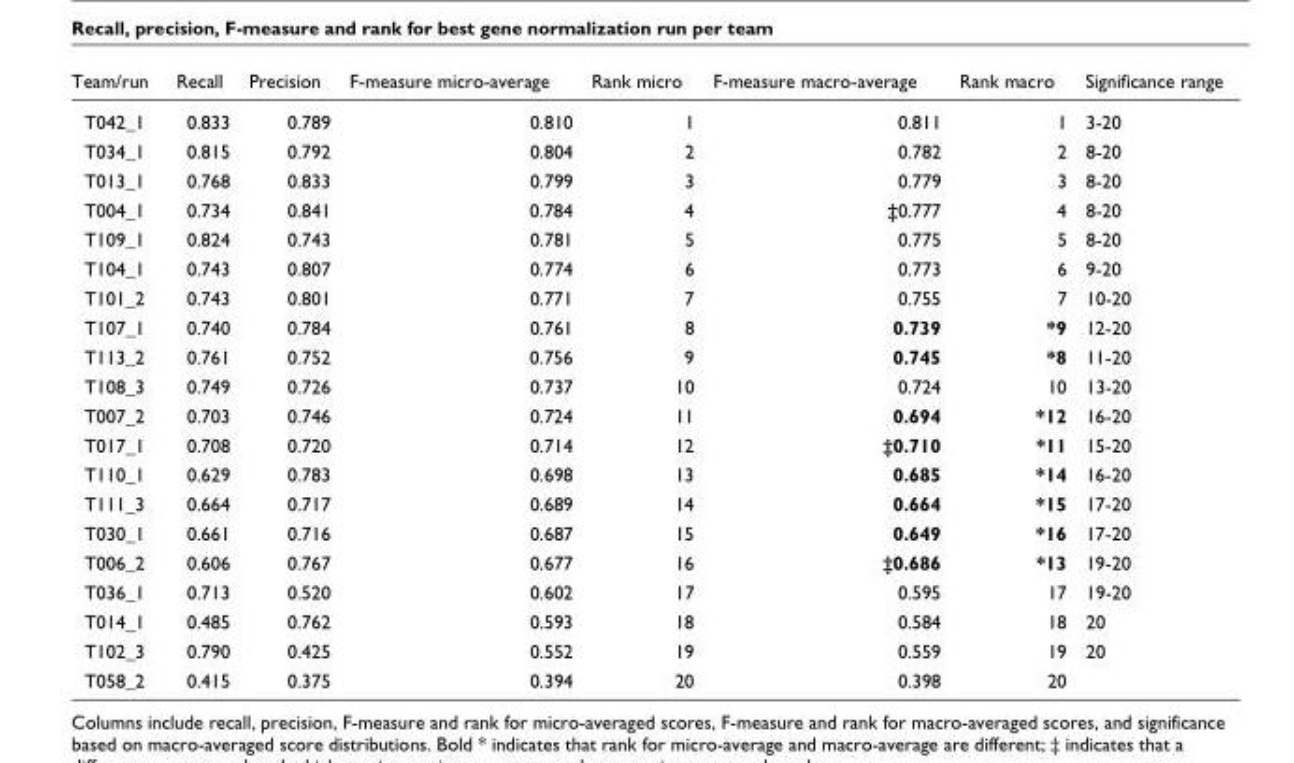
<table><thead><tr><td>Team/run</td><td>Recall</td><td>Precision</td><td>F-measure micro-average</td><td>Rank micro</td><td>F-measure macro-average</td><td>Rank macro</td><td>Significance range</td></tr></thead><tbody><tr><td>T042_1</td><td>0.833</td><td>0.789</td><td>0.810</td><td>1</td><td>0.811</td><td>1</td><td>3-20</td></tr><tr><td>T034_1</td><td>0.815</td><td>0.792</td><td>0.804</td><td>2</td><td>0.782</td><td>2</td><td>8-20</td></tr><tr><td>T013_1</td><td>0.768</td><td>0.833</td><td>0.799</td><td>3</td><td>0.779</td><td>3</td><td>8-20</td></tr><tr><td>T004_1</td><td>0.734</td><td>0.841</td><td>0.784</td><td>4</td><td>‡0.777</td><td>4</td><td>8-20</td></tr><tr><td>T109_1</td><td>0.824</td><td>0.743</td><td>0.781</td><td>5</td><td>0.775</td><td>5</td><td>8-20</td></tr><tr><td>T104_1</td><td>0.743</td><td>0.807</td><td>0.774</td><td>6</td><td>0.773</td><td>6</td><td>9-20</td></tr><tr><td>T101_2</td><td>0.743</td><td>0.801</td><td>0.771</td><td>7</td><td>0.755</td><td>7</td><td>10-20</td></tr><tr><td>T107_1</td><td>0.740</td><td>0.784</td><td>0.761</td><td>8</td><td>0.739</td><td>*9</td><td>12-20</td></tr><tr><td>T113_2</td><td>0.761</td><td>0.752</td><td>0.756</td><td>9</td><td>0.745</td><td>*8</td><td>11-20</td></tr><tr><td>T108_3</td><td>0.749</td><td>0.726</td><td>0.737</td><td>10</td><td>0.724</td><td>10</td><td>13-20</td></tr><tr><td>T007_2</td><td>0.703</td><td>0.746</td><td>0.724</td><td>11</td><td>0.694</td><td>*12</td><td>16-20</td></tr><tr><td>T017_1</td><td>0.708</td><td>0.720</td><td>0.714</td><td>12</td><td>‡0.710</td><td>*11</td><td>15-20</td></tr><tr><td>T110_1</td><td>0.629</td><td>0.783</td><td>0.698</td><td>13</td><td>0.685</td><td>*14</td><td>16-20</td></tr><tr><td>T111_3</td><td>0.664</td><td>0.717</td><td>0.689</td><td>14</td><td>0.664</td><td>*15</td><td>17-20</td></tr><tr><td>T030_1</td><td>0.661</td><td>0.716</td><td>0.687</td><td>15</td><td>0.649</td><td>*16</td><td>17-20</td></tr><tr><td>T006_2</td><td>0.606</td><td>0.767</td><td>0.677</td><td>16</td><td>‡0.686</td><td>*13</td><td>19-20</td></tr><tr><td>T036_1</td><td>0.713</td><td>0.520</td><td>0.602</td><td>17</td><td>0.595</td><td>17</td><td>19-20</td></tr><tr><td>T014_1</td><td>0.485</td><td>0.762</td><td>0.593</td><td>18</td><td>0.584</td><td>18</td><td>20</td></tr><tr><td>T102_3</td><td>0.790</td><td>0.425</td><td>0.552</td><td>19</td><td>0.559</td><td>19</td><td>20</td></tr><tr><td>T058_2</td><td>0.415</td><td>0.375</td><td>0.394</td><td>20</td><td>0.398</td><td>20</td><td></td></tr></tbody></table>